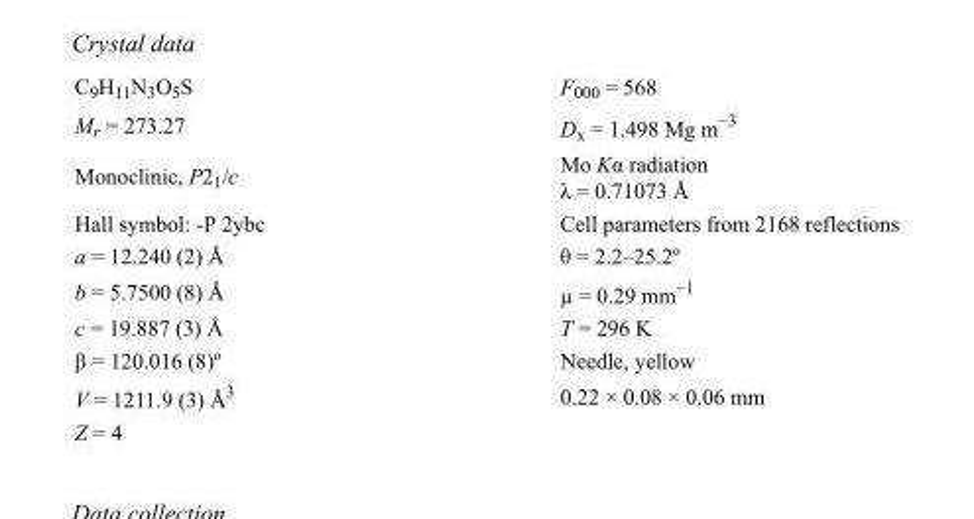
<table><tbody><tr><td>C<sub>9</sub>H<sub>11</sub>N<sub>3</sub>O<sub>5</sub>S</td><td>F000 = 568</td></tr><tr><td>M<sub>r</sub> = 273.27</td><td>D<sub>x</sub> = 1.498 Mg m<sup>−3</sup></td></tr><tr><td>Monoclinic, P2<sub>1</sub>/c</td><td>Mo Kα radiation λ = 0.71073 Å</td></tr><tr><td>Hall symbol: -P 2ybc</td><td>Cell parameters from 2168 reflections</td></tr><tr><td>a = 12.240 (2) Å</td><td>θ = 2.2–25.2º</td></tr><tr><td>b = 5.7500 (8) Å</td><td>µ = 0.29 mm−1</td></tr><tr><td>c = 19.887 (3) Å</td><td>T = 296 K</td></tr><tr><td>β = 120.016 (8)º</td><td>Needle, yellow</td></tr><tr><td>V = 1211.9 (3) Å<sup>3</sup></td><td>0.22 × 0.08 × 0.06 mm</td></tr><tr><td>Z = 4</td><td></td></tr></tbody></table>